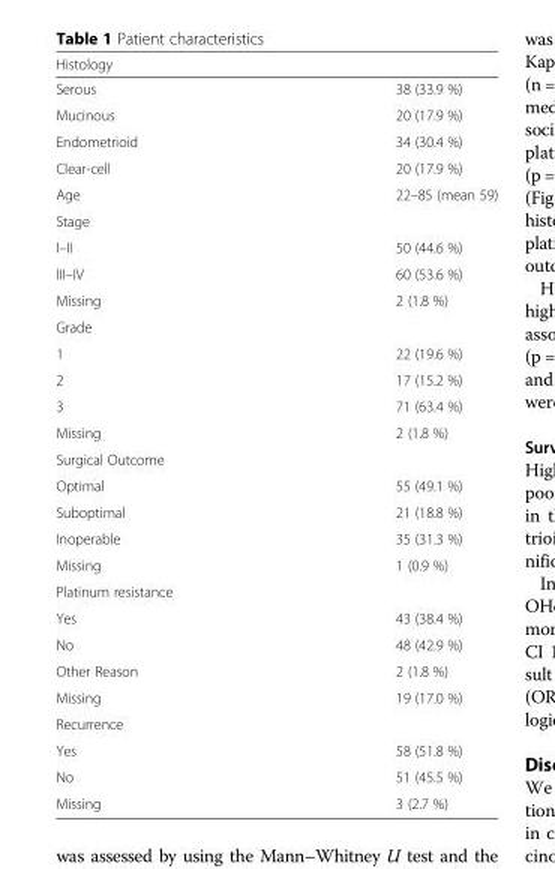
<table><thead><tr><td>Histology</td><td></td></tr></thead><tbody><tr><td>Serous</td><td>38 (33.9 %)</td></tr><tr><td>Mucinous</td><td>20 (17.9 %)</td></tr><tr><td>Endometrioid</td><td>34 (30.4 %)</td></tr><tr><td>Clear-cell</td><td>20 (17.9 %)</td></tr><tr><td>Age</td><td>22–85 (mean 59)</td></tr><tr><td colspan="2">Stage</td></tr><tr><td>I–II</td><td>50 (44.6 %)</td></tr><tr><td>III–IV</td><td>60 (53.6 %)</td></tr><tr><td>Missing</td><td>2 (1.8 %)</td></tr><tr><td colspan="2">Grade</td></tr><tr><td>1</td><td>22 (19.6 %)</td></tr><tr><td>2</td><td>17 (15.2 %)</td></tr><tr><td>3</td><td>71 (63.4 %)</td></tr><tr><td>Missing</td><td>2 (1.8 %)</td></tr><tr><td colspan="2">Surgical Outcome</td></tr><tr><td>Optimal</td><td>55 (49.1 %)</td></tr><tr><td>Suboptimal</td><td>21 (18.8 %)</td></tr><tr><td>Inoperable</td><td>35 (31.3 %)</td></tr><tr><td>Missing</td><td>1 (0.9 %)</td></tr><tr><td colspan="2">Platinum resistance</td></tr><tr><td>Yes</td><td>43 (38.4 %)</td></tr><tr><td>No</td><td>48 (42.9 %)</td></tr><tr><td>Other Reason</td><td>2 (1.8 %)</td></tr><tr><td>Missing</td><td>19 (17.0 %)</td></tr><tr><td colspan="2">Recurrence</td></tr><tr><td>Yes</td><td>58 (51.8 %)</td></tr><tr><td>No</td><td>51 (45.5 %)</td></tr><tr><td>Missing</td><td>3 (2.7 %)</td></tr></tbody></table>